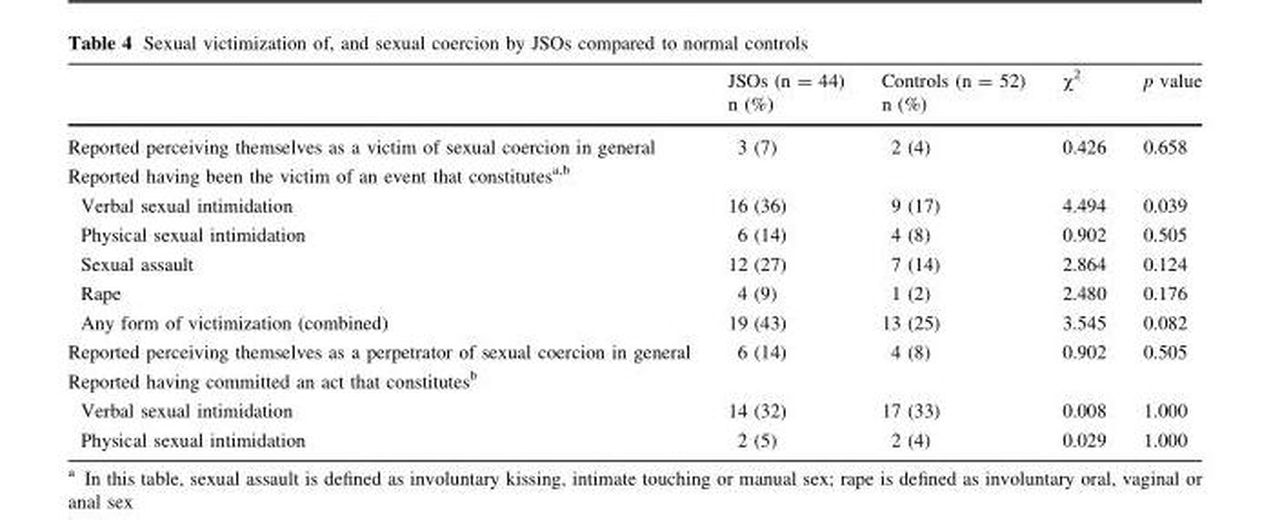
<table><thead><tr><td rowspan="2"></td><td rowspan="2">JSOs (n = 44) n (%)</td><td rowspan="2">Controls (n = 52) n (%)</td><td rowspan="2">χ<sup>2</sup></td><td rowspan="2">p value</td></tr><tr></tr></thead><tbody><tr><td>Reported perceiving themselves as a victim of sexual coercion in general</td><td>3 (7)</td><td>2 (4)</td><td>0.426</td><td>0.658</td></tr><tr><td colspan="5">Reported having been the victim of an event that constitutes<sup>a,b</sup></td></tr><tr><td>Verbal sexual intimidation</td><td>16 (36)</td><td>9 (17)</td><td>4.494</td><td>0.039</td></tr><tr><td>Physical sexual intimidation</td><td>6 (14)</td><td>4 (8)</td><td>0.902</td><td>0.505</td></tr><tr><td>Sexual assault</td><td>12 (27)</td><td>7 (14)</td><td>2.864</td><td>0.124</td></tr><tr><td>Rape</td><td>4 (9)</td><td>1 (2)</td><td>2.480</td><td>0.176</td></tr><tr><td>Any form of victimization (combined)</td><td>19 (43)</td><td>13 (25)</td><td>3.545</td><td>0.082</td></tr><tr><td>Reported perceiving themselves as a perpetrator of sexual coercion in general</td><td>6 (14)</td><td>4 (8)</td><td>0.902</td><td>0.505</td></tr><tr><td colspan="5">Reported having committed an act that constitutes<sup>b</sup></td></tr><tr><td>Verbal sexual intimidation</td><td>14 (32)</td><td>17 (33)</td><td>0.008</td><td>1.000</td></tr><tr><td>Physical sexual intimidation</td><td>2 (5)</td><td>2 (4)</td><td>0.029</td><td>1.000</td></tr></tbody></table>